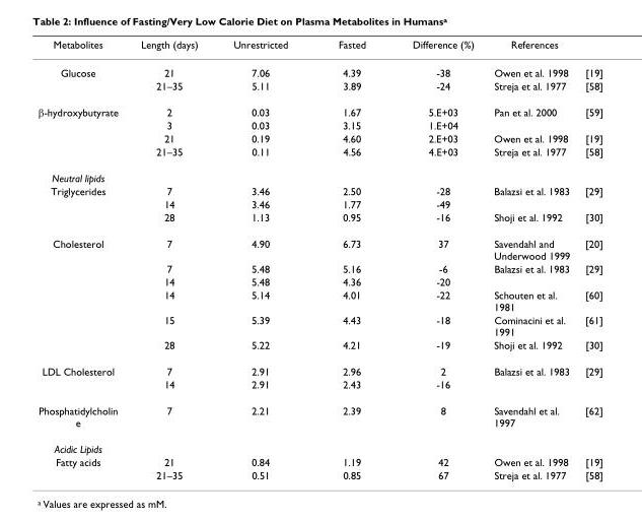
<table><thead><tr><td>Metabolites</td><td>Length (days)</td><td>Unrestricted</td><td>Fasted</td><td>Difference (%)</td><td>References</td><td></td></tr></thead><tbody><tr><td rowspan="2">Glucose</td><td>21</td><td>7.06</td><td>4.39</td><td>-38</td><td>Owen et al. 1998</td><td>[19]</td></tr><tr><td>21–35</td><td>5.11</td><td>3.89</td><td>-24</td><td>Streja et al. 1977</td><td>[58]</td></tr><tr><td rowspan="4">β-hydroxybutyrate</td><td>2</td><td>0.03</td><td>1.67</td><td>5.E+03</td><td>Pan et al. 2000</td><td>[59]</td></tr><tr><td>3</td><td>0.03</td><td>3.15</td><td>1.E+04</td><td></td><td></td></tr><tr><td>21</td><td>0.19</td><td>4.60</td><td>2.E+03</td><td>Owen et al. 1998</td><td>[19]</td></tr><tr><td>21–35</td><td>0.11</td><td>4.56</td><td>4.E+03</td><td>Streja et al. 1977</td><td>[58]</td></tr><tr><td colspan="7">Neutral lipids</td></tr><tr><td rowspan="3">Triglycerides</td><td>7</td><td>3.46</td><td>2.50</td><td>-28</td><td>Balazsi et al. 1983</td><td>[29]</td></tr><tr><td>14</td><td>3.46</td><td>1.77</td><td>-49</td><td></td><td></td></tr><tr><td>28</td><td>1.13</td><td>0.95</td><td>-16</td><td>Shoji et al. 1992</td><td>[30]</td></tr><tr><td rowspan="6">Cholesterol</td><td>7</td><td>4.90</td><td>6.73</td><td>37</td><td>Savendahl and Underwood 1999</td><td>[20]</td></tr><tr><td>7</td><td>5.48</td><td>5.16</td><td>-6</td><td>Balazsi et al. 1983</td><td>[29]</td></tr><tr><td>14</td><td>5.48</td><td>4.36</td><td>-20</td><td></td><td></td></tr><tr><td>14</td><td>5.14</td><td>4.01</td><td>-22</td><td>Schouten et al. 1981</td><td>[60]</td></tr><tr><td>15</td><td>5.39</td><td>4.43</td><td>-18</td><td>Cominacini et al. 1991</td><td>[61]</td></tr><tr><td>28</td><td>5.22</td><td>4.21</td><td>-19</td><td>Shoji et al. 1992</td><td>[30]</td></tr><tr><td rowspan="2">LDL Cholesterol</td><td>7</td><td>2.91</td><td>2.96</td><td>2</td><td>Balazsi et al. 1983</td><td>[29]</td></tr><tr><td>14</td><td>2.91</td><td>2.43</td><td>-16</td><td></td><td></td></tr><tr><td>Phosphatidylcholin e</td><td>7</td><td>2.21</td><td>2.39</td><td>8</td><td>Savendahl et al. 1997</td><td>[62]</td></tr><tr><td colspan="7">Acidic Lipids</td></tr><tr><td rowspan="2">Fatty acids</td><td>21</td><td>0.84</td><td>1.19</td><td>42</td><td>Owen et al. 1998</td><td>[19]</td></tr><tr><td>21–35</td><td>0.51</td><td>0.85</td><td>67</td><td>Streja et al. 1977</td><td>[58]</td></tr></tbody></table>